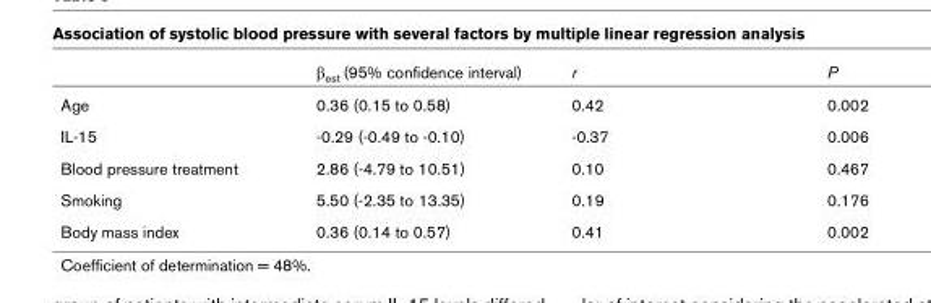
<table><thead><tr><td></td><td>β<sub>est</sub> (95% confidence interval)</td><td>r</td><td>P</td></tr></thead><tbody><tr><td>Age</td><td>0.36 (0.15 to 0.58)</td><td>0.42</td><td>0.002</td></tr><tr><td>IL-15</td><td>-0.29 (-0.49 to -0.10)</td><td>-0.37</td><td>0.006</td></tr><tr><td>Blood pressure treatment</td><td>2.86 (-4.79 to 10.51)</td><td>0.10</td><td>0.467</td></tr><tr><td>Smoking</td><td>5.50 (-2.35 to 13.35)</td><td>0.19</td><td>0.176</td></tr><tr><td>Body mass index</td><td>0.36 (0.14 to 0.57)</td><td>0.41</td><td>0.002</td></tr></tbody></table>